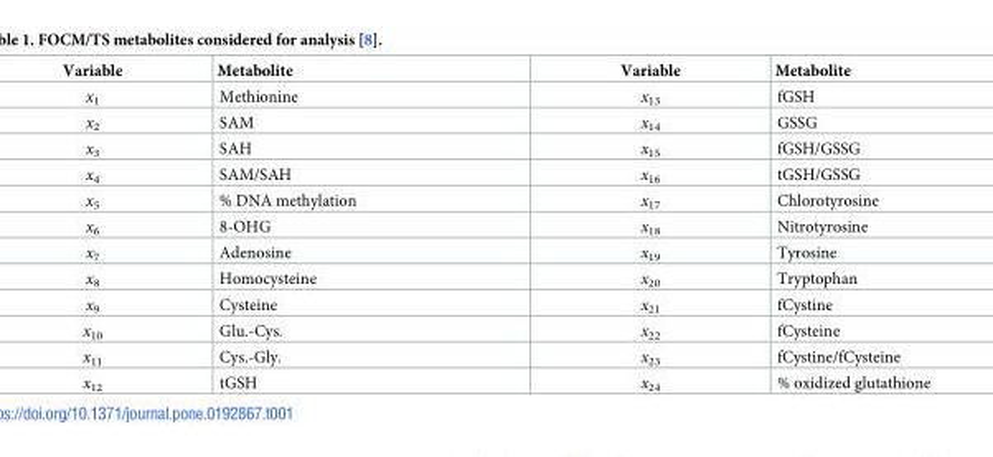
<table><thead><tr><td>Variable</td><td>Metabolite</td><td>Variable</td><td>Metabolite</td></tr></thead><tbody><tr><td>x<sub>1</sub></td><td>Methionine</td><td>x<sub>13</sub></td><td>fGSH</td></tr><tr><td>x<sub>2</sub></td><td>SAM</td><td>x<sub>14</sub></td><td>GSSG</td></tr><tr><td>x<sub>3</sub></td><td>SAH</td><td>x<sub>15</sub></td><td>fGSH/GSSG</td></tr><tr><td>x<sub>4</sub></td><td>SAM/SAH</td><td>x<sub>16</sub></td><td>tGSH/GSSG</td></tr><tr><td>x<sub>5</sub></td><td>% DNA methylation</td><td>x<sub>17</sub></td><td>Chlorotyrosine</td></tr><tr><td>x<sub>6</sub></td><td>8-OHG</td><td>x<sub>18</sub></td><td>Nitrotyrosine</td></tr><tr><td>x<sub>7</sub></td><td>Adenosine</td><td>x<sub>19</sub></td><td>Tyrosine</td></tr><tr><td>x<sub>8</sub></td><td>Homocysteine</td><td>x<sub>20</sub></td><td>Tryptophan</td></tr><tr><td>x<sub>9</sub></td><td>Cysteine</td><td>x<sub>21</sub></td><td>fCystine</td></tr><tr><td>x<sub>10</sub></td><td>Glu.-Cys.</td><td>x<sub>22</sub></td><td>fCysteine</td></tr><tr><td>x<sub>11</sub></td><td>Cys.-Gly.</td><td>x<sub>23</sub></td><td>fCystine/fCysteine</td></tr><tr><td>x<sub>12</sub></td><td>tGSH</td><td>x<sub>24</sub></td><td>% oxidized glutathione</td></tr></tbody></table>